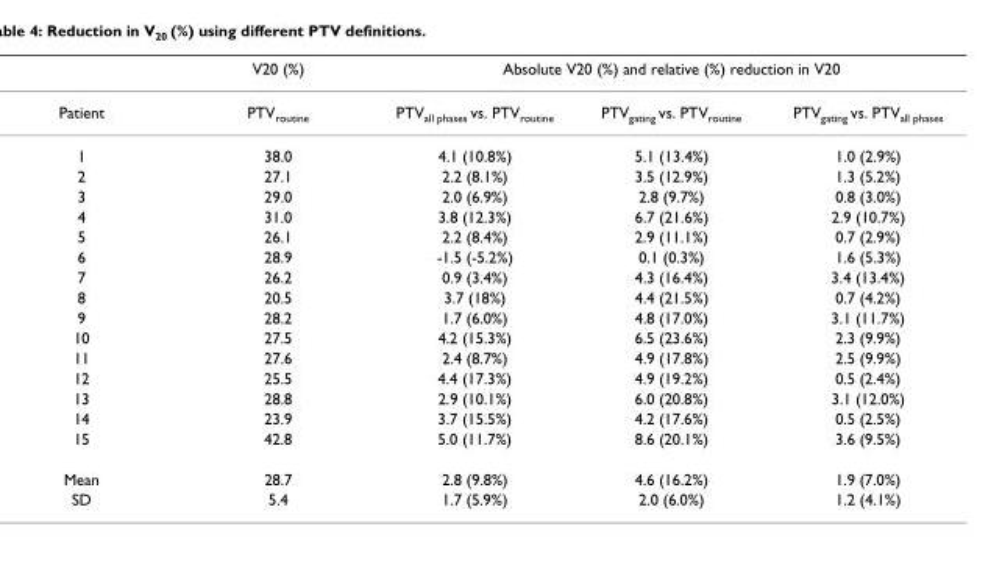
<table><thead><tr><td rowspan="2">Patient</td><td rowspan="2">V20 (%) PTVroutine</td><td colspan="3">Absolute V20 (%) and relative (%) reduction in V20</td></tr><tr><td>PTVall phases vs. PTVroutine</td><td>PTVgating vs. PTVroutine</td><td>PTVgating vs. PTVall phases</td></tr></thead><tbody><tr><td>1</td><td>38.0</td><td>4.1 (10.8%)</td><td>5.1 (13.4%)</td><td>1.0 (2.9%)</td></tr><tr><td>2</td><td>27.1</td><td>2.2 (8.1%)</td><td>3.5 (12.9%)</td><td>1.3 (5.2%)</td></tr><tr><td>3</td><td>29.0</td><td>2.0 (6.9%)</td><td>2.8 (9.7%)</td><td>0.8 (3.0%)</td></tr><tr><td>4</td><td>31.0</td><td>3.8 (12.3%)</td><td>6.7 (21.6%)</td><td>2.9 (10.7%)</td></tr><tr><td>5</td><td>26.1</td><td>2.2 (8.4%)</td><td>2.9 (11.1%)</td><td>0.7 (2.9%)</td></tr><tr><td>6</td><td>28.9</td><td>-1.5 (-5.2%)</td><td>0.1 (0.3%)</td><td>1.6 (5.3%)</td></tr><tr><td>7</td><td>26.2</td><td>0.9 (3.4%)</td><td>4.3 (16.4%)</td><td>3.4 (13.4%)</td></tr><tr><td>8</td><td>20.5</td><td>3.7 (18%)</td><td>4.4 (21.5%)</td><td>0.7 (4.2%)</td></tr><tr><td>9</td><td>28.2</td><td>1.7 (6.0%)</td><td>4.8 (17.0%)</td><td>3.1 (11.7%)</td></tr><tr><td>10</td><td>27.5</td><td>4.2 (15.3%)</td><td>6.5 (23.6%)</td><td>2.3 (9.9%)</td></tr><tr><td>11</td><td>27.6</td><td>2.4 (8.7%)</td><td>4.9 (17.8%)</td><td>2.5 (9.9%)</td></tr><tr><td>12</td><td>25.5</td><td>4.4 (17.3%)</td><td>4.9 (19.2%)</td><td>0.5 (2.4%)</td></tr><tr><td>13</td><td>28.8</td><td>2.9 (10.1%)</td><td>6.0 (20.8%)</td><td>3.1 (12.0%)</td></tr><tr><td>14</td><td>23.9</td><td>3.7 (15.5%)</td><td>4.2 (17.6%)</td><td>0.5 (2.5%)</td></tr><tr><td>15</td><td>42.8</td><td>5.0 (11.7%)</td><td>8.6 (20.1%)</td><td>3.6 (9.5%)</td></tr><tr><td>Mean</td><td>28.7</td><td>2.8 (9.8%)</td><td>4.6 (16.2%)</td><td>1.9 (7.0%)</td></tr><tr><td>SD</td><td>5.4</td><td>1.7 (5.9%)</td><td>2.0 (6.0%)</td><td>1.2 (4.1%)</td></tr></tbody></table>